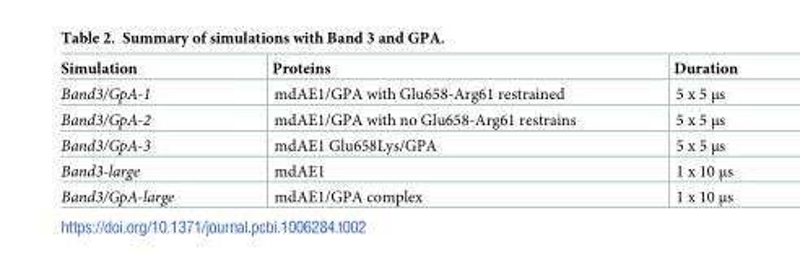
<table><thead><tr><td>Simulation</td><td>Proteins</td><td>Duration</td></tr></thead><tbody><tr><td>Band3/GpA-1</td><td>mdAE1/GPA with Glu658-Arg61 restrained</td><td>5 x 5 μs</td></tr><tr><td>Band3/GpA-2</td><td>mdAE1/GPA with no Glu658-Arg61 restrains</td><td>5 x 5 μs</td></tr><tr><td>Band3/GpA-3</td><td>mdAE1 Glu658Lys/GPA</td><td>5 x 5 μs</td></tr><tr><td>Band3-large</td><td>mdAE1</td><td>1 x 10 μs</td></tr><tr><td>Band3/GpA-large</td><td>mdAE1/GPA complex</td><td>1 x 10 μs</td></tr></tbody></table>